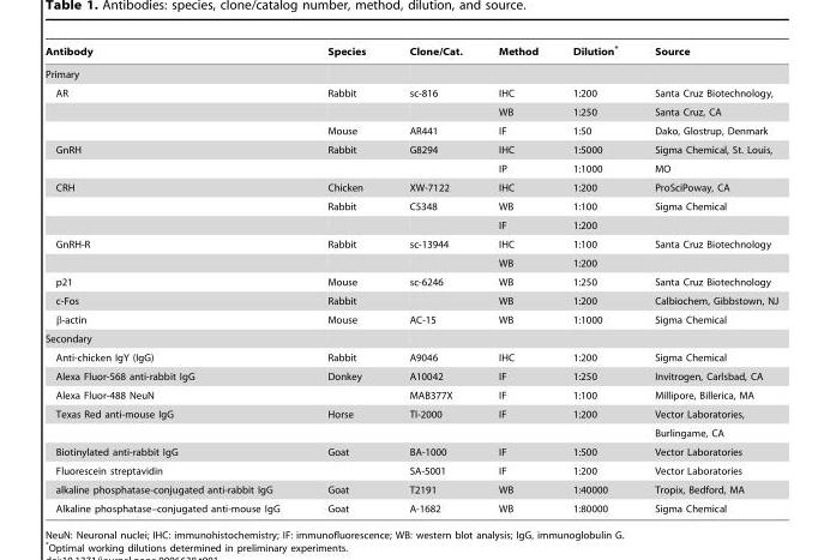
<table><thead><tr><td>Antibody</td><td>Species</td><td>Clone/Cat.</td><td>Method</td><td>Dilution*</td><td>Source</td></tr></thead><tbody><tr><td colspan="6">Primary</td></tr><tr><td rowspan="3">AR</td><td>Rabbit</td><td>sc-816</td><td>IHC</td><td>1:200</td><td>Santa Cruz Biotechnology,</td></tr><tr><td></td><td></td><td>WB</td><td>1:250</td><td>Santa Cruz, CA</td></tr><tr><td>Mouse</td><td>AR441</td><td>IF</td><td>1:50</td><td>Dako, Glostrup, Denmark</td></tr><tr><td rowspan="2">GnRH</td><td>Rabbit</td><td>G8294</td><td>IHC</td><td>1:5000</td><td>Sigma Chemical, St. Louis,</td></tr><tr><td></td><td></td><td>IP</td><td>1:1000</td><td>MO</td></tr><tr><td rowspan="3">CRH</td><td>Chicken</td><td>XW-7122</td><td>IHC</td><td>1:200</td><td>ProSciPoway, CA</td></tr><tr><td>Rabbit</td><td>C5348</td><td>WB</td><td>1:100</td><td>Sigma Chemical</td></tr><tr><td></td><td></td><td>IF</td><td>1:200</td><td></td></tr><tr><td rowspan="2">GnRH-R</td><td>Rabbit</td><td>sc-13944</td><td>IHC</td><td>1:100</td><td>Santa Cruz Biotechnology</td></tr><tr><td></td><td></td><td>WB</td><td>1:200</td><td></td></tr><tr><td>p21</td><td>Mouse</td><td>sc-6246</td><td>WB</td><td>1:250</td><td>Santa Cruz Biotechnology</td></tr><tr><td>c-Fos</td><td>Rabbit</td><td></td><td>WB</td><td>1:200</td><td>Calbiochem, Gibbstown, NJ</td></tr><tr><td>β-actin</td><td>Mouse</td><td>AC-15</td><td>WB</td><td>1:1000</td><td>Sigma Chemical</td></tr><tr><td colspan="6">Secondary</td></tr><tr><td>Anti-chicken IgY (IgG)</td><td>Rabbit</td><td>A9046</td><td>IHC</td><td>1:200</td><td>Sigma Chemical</td></tr><tr><td>Alexa Fluor-568 anti-rabbit IgG</td><td>Donkey</td><td>A10042</td><td>IF</td><td>1:250</td><td>Invitrogen, Carlsbad, CA</td></tr><tr><td>Alexa Fluor-488 NeuN</td><td></td><td>MAB377X</td><td>IF</td><td>1:100</td><td>Millipore, Billerica, MA</td></tr><tr><td rowspan="2">Texas Red anti-mouse IgG</td><td>Horse</td><td>TI-2000</td><td>IF</td><td>1:200</td><td>Vector Laboratories,</td></tr><tr><td></td><td></td><td></td><td></td><td>Burlingame, CA</td></tr><tr><td>Biotinylated anti-rabbit IgG</td><td>Goat</td><td>BA-1000</td><td>IF</td><td>1:500</td><td>Vector Laboratories</td></tr><tr><td>Fluorescein streptavidin</td><td></td><td>SA-5001</td><td>IF</td><td>1:200</td><td>Vector Laboratories</td></tr><tr><td>alkaline phosphatase-conjugated anti-rabbit IgG</td><td>Goat</td><td>T2191</td><td>WB</td><td>1:40000</td><td>Tropix, Bedford, MA</td></tr><tr><td>Alkaline phosphatase–conjugated anti-mouse IgG</td><td>Goat</td><td>A-1682</td><td>WB</td><td>1:80000</td><td>Sigma Chemical</td></tr></tbody></table>